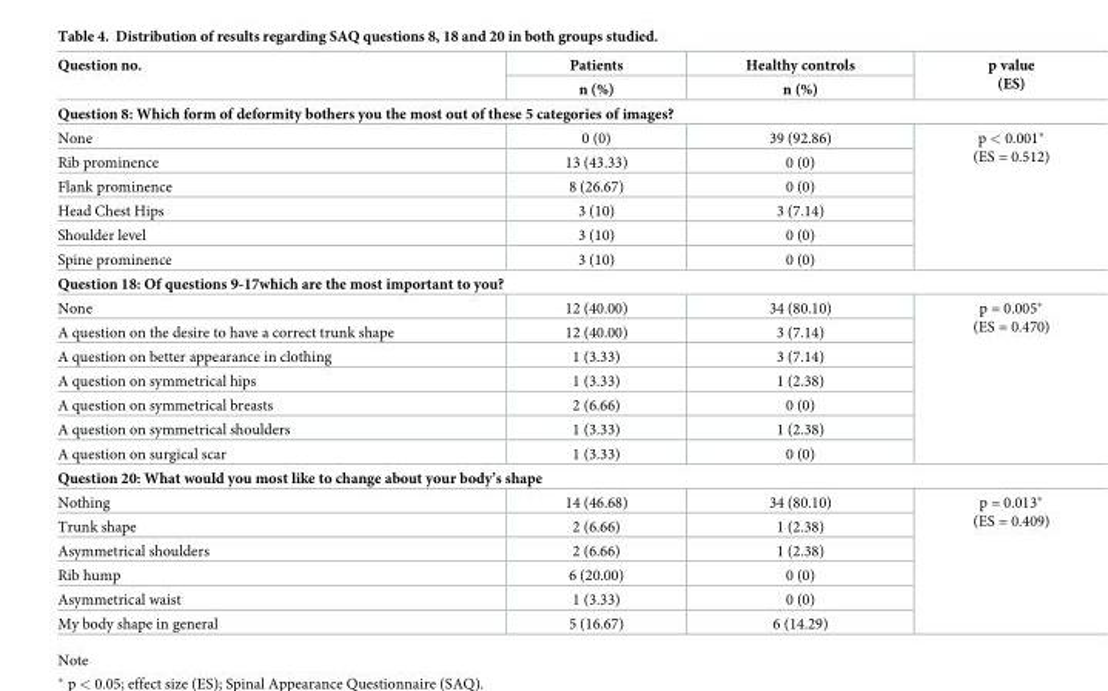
<table><thead><tr><td rowspan="2">Question no.</td><td rowspan="2">Patients n (%)</td><td rowspan="2">Healthy controls n (%)</td><td rowspan="2">p value (ES)</td></tr><tr></tr></thead><tbody><tr><td colspan="4">Question 8: Which form of deformity bothers you the most out of these 5 categories of images?</td></tr><tr><td>None</td><td>0 (0)</td><td>39 (92.86)</td><td rowspan="6">p &lt; 0.001* (ES = 0.512)</td></tr><tr><td>Rib prominence</td><td>13 (43.33)</td><td>0 (0)</td></tr><tr><td>Flank prominence</td><td>8 (26.67)</td><td>0 (0)</td></tr><tr><td>Head Chest Hips</td><td>3 (10)</td><td>3 (7.14)</td></tr><tr><td>Shoulder level</td><td>3 (10)</td><td>0 (0)</td></tr><tr><td>Spine prominence</td><td>3 (10)</td><td>0 (0)</td></tr><tr><td colspan="4">Question 18: Of questions 9-17which are the most important to you?</td></tr><tr><td>None</td><td>12 (40.00)</td><td>34 (80.10)</td><td rowspan="7">p = 0.005* (ES = 0.470)</td></tr><tr><td>A question on the desire to have a correct trunk shape</td><td>12 (40.00)</td><td>3 (7.14)</td></tr><tr><td>A question on better appearance in clothing</td><td>1 (3.33)</td><td>3 (7.14)</td></tr><tr><td>A question on symmetrical hips</td><td>1 (3.33)</td><td>1 (2.38)</td></tr><tr><td>A question on symmetrical breasts</td><td>2 (6.66)</td><td>0 (0)</td></tr><tr><td>A question on symmetrical shoulders</td><td>1 (3.33)</td><td>1 (2.38)</td></tr><tr><td>A question on surgical scar</td><td>1 (3.33)</td><td>0 (0)</td></tr><tr><td colspan="4">Question 20: What would you most like to change about your body’s shape</td></tr><tr><td>Nothing</td><td>14 (46.68)</td><td>34 (80.10)</td><td rowspan="6">p = 0.013* (ES = 0.409)</td></tr><tr><td>Trunk shape</td><td>2 (6.66)</td><td>1 (2.38)</td></tr><tr><td>Asymmetrical shoulders</td><td>2 (6.66)</td><td>1 (2.38)</td></tr><tr><td>Rib hump</td><td>6 (20.00)</td><td>0 (0)</td></tr><tr><td>Asymmetrical waist</td><td>1 (3.33)</td><td>0 (0)</td></tr><tr><td>My body shape in general</td><td>5 (16.67)</td><td>6 (14.29)</td></tr></tbody></table>